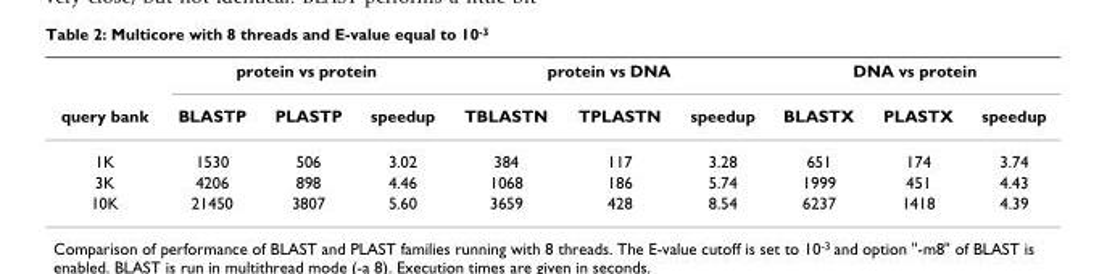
<table><thead><tr><td rowspan="2">query bank</td><td colspan="3">protein vs protein</td><td colspan="3">protein vs DNA</td><td colspan="3">DNA vs protein</td></tr><tr><td>BLASTP</td><td>PLASTP</td><td>speedup</td><td>TBLASTN</td><td>TPLASTN</td><td>speedup</td><td>BLASTX</td><td>PLASTX</td><td>speedup</td></tr></thead><tbody><tr><td>1K</td><td>1530</td><td>506</td><td>3.02</td><td>384</td><td>117</td><td>3.28</td><td>651</td><td>174</td><td>3.74</td></tr><tr><td>3K</td><td>4206</td><td>898</td><td>4.46</td><td>1068</td><td>186</td><td>5.74</td><td>1999</td><td>451</td><td>4.43</td></tr><tr><td>10K</td><td>21450</td><td>3807</td><td>5.60</td><td>3659</td><td>428</td><td>8.54</td><td>6237</td><td>1418</td><td>4.39</td></tr></tbody></table>